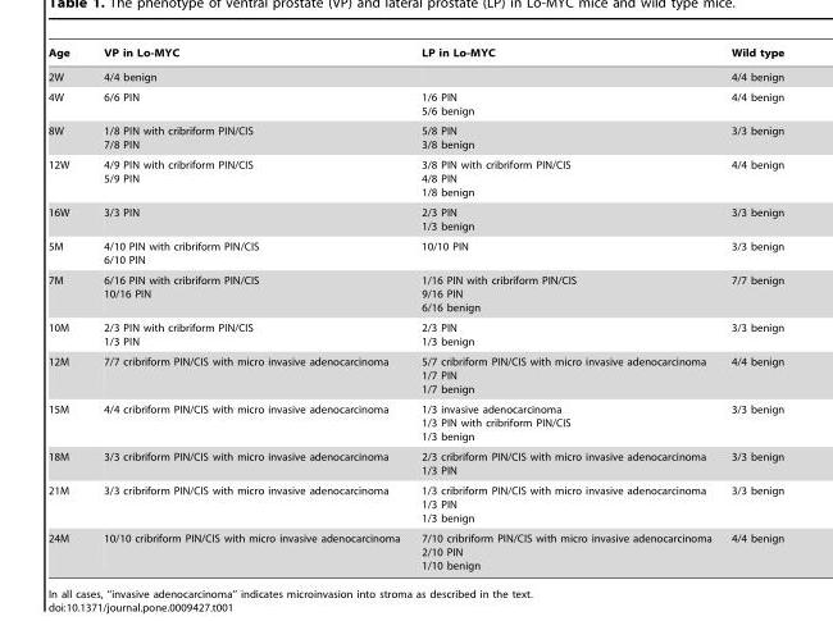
<table><thead><tr><td>Age</td><td>VP in Lo-MYC</td><td>LP in Lo-MYC</td><td>Wild type</td></tr></thead><tbody><tr><td>2W</td><td>4/4 benign</td><td></td><td>4/4 benign</td></tr><tr><td>4W</td><td>6/6 PIN</td><td>1/6 PIN 5/6 benign</td><td>4/4 benign</td></tr><tr><td>8W</td><td>1/8 PIN with cribriform PIN/CIS 7/8 PIN</td><td>5/8 PIN 3/8 benign</td><td>3/3 benign</td></tr><tr><td>12W</td><td>4/9 PIN with cribriform PIN/CIS 5/9 PIN</td><td>3/8 PIN with cribriform PIN/CIS 4/8 PIN 1/8 benign</td><td>4/4 benign</td></tr><tr><td>16W</td><td>3/3 PIN</td><td>2/3 PIN 1/3 benign</td><td>3/3 benign</td></tr><tr><td>5M</td><td>4/10 PIN with cribriform PIN/CIS 6/10 PIN</td><td>10/10 PIN</td><td>3/3 benign</td></tr><tr><td>7M</td><td>6/16 PIN with cribriform PIN/CIS 10/16 PIN</td><td>1/16 PIN with cribriform PIN/CIS 9/16 PIN 6/16 benign</td><td>7/7 benign</td></tr><tr><td>10M</td><td>2/3 PIN with cribriform PIN/CIS 1/3 PIN</td><td>2/3 PIN 1/3 benign</td><td>3/3 benign</td></tr><tr><td>12M</td><td>7/7 cribriform PIN/CIS with micro invasive adenocarcinoma</td><td>5/7 cribriform PIN/CIS with micro invasive adenocarcinoma 1/7 PIN 1/7 benign</td><td>4/4 benign</td></tr><tr><td>15M</td><td>4/4 cribriform PIN/CIS with micro invasive adenocarcinoma</td><td>1/3 invasive adenocarcinoma 1/3 PIN with cribriform PIN/CIS 1/3 benign</td><td>3/3 benign</td></tr><tr><td>18M</td><td>3/3 cribriform PIN/CIS with micro invasive adenocarcinoma</td><td>2/3 cribriform PIN/CIS with micro invasive adenocarcinoma 1/3 PIN</td><td>3/3 benign</td></tr><tr><td>21M</td><td>3/3 cribriform PIN/CIS with micro invasive adenocarcinoma</td><td>1/3 cribriform PIN/CIS with micro invasive adenocarcinoma 1/3 PIN 1/3 benign</td><td>3/3 benign</td></tr><tr><td>24M</td><td>10/10 cribriform PIN/CIS with micro invasive adenocarcinoma</td><td>7/10 cribriform PIN/CIS with micro invasive adenocarcinoma 2/10 PIN 1/10 benign</td><td>4/4 benign</td></tr></tbody></table>